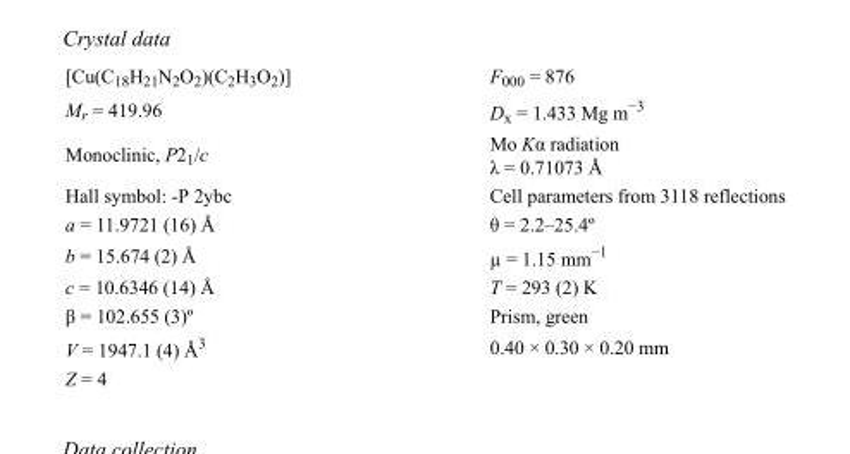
<table><tbody><tr><td>[Cu(C<sub>18</sub>H<sub>21</sub>N<sub>2</sub>O<sub>2</sub>)(C<sub>2</sub>H<sub>3</sub>O<sub>2</sub>)]</td><td>F000 = 876</td></tr><tr><td>M<sub>r</sub> = 419.96</td><td>D<sub>x</sub> = 1.433 Mg m<sup>−3</sup></td></tr><tr><td>Monoclinic, P2<sub>1</sub>/c</td><td>Mo Kα radiation λ = 0.71073 Å</td></tr><tr><td>Hall symbol: -P 2ybc</td><td>Cell parameters from 3118 reflections</td></tr><tr><td>a = 11.9721 (16) Å</td><td>θ = 2.2–25.4º</td></tr><tr><td>b = 15.674 (2) Å</td><td>µ = 1.15 mm<sup>−1</sup></td></tr><tr><td>c = 10.6346 (14) Å</td><td>T = 293 (2) K</td></tr><tr><td>β = 102.655 (3)º</td><td>Prism, green</td></tr><tr><td>V = 1947.1 (4) Å<sup>3</sup></td><td>0.40 × 0.30 × 0.20 mm</td></tr><tr><td>Z = 4</td><td></td></tr></tbody></table>